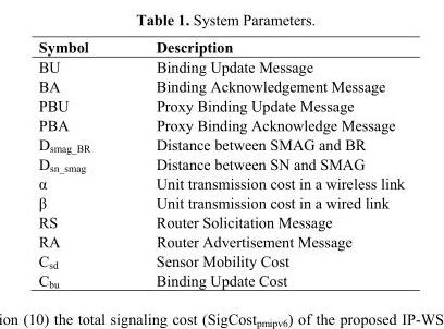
<table><thead><tr><td>Symbol</td><td>Description</td></tr></thead><tbody><tr><td>BU</td><td>Binding Update Message</td></tr><tr><td>BA</td><td>Binding Acknowledgement Message</td></tr><tr><td>PBU</td><td>Proxy Binding Update Message</td></tr><tr><td>PBA</td><td>Proxy Binding Acknowledge Message</td></tr><tr><td>D<sub>smag_BR</sub></td><td>Distance between SMAG and BR</td></tr><tr><td>D<sub>sn_smag</sub></td><td>Distance between SN and SMAG</td></tr><tr><td>α</td><td>Unit transmission cost in a wireless link</td></tr><tr><td>β</td><td>Unit transmission cost in a wired link</td></tr><tr><td>RS</td><td>Router Solicitation Message</td></tr><tr><td>RA</td><td>Router Advertisement Message</td></tr><tr><td>C<sub>sd</sub></td><td>Sensor Mobility Cost</td></tr><tr><td>C<sub>bu</sub></td><td>Binding Update Cost</td></tr></tbody></table>